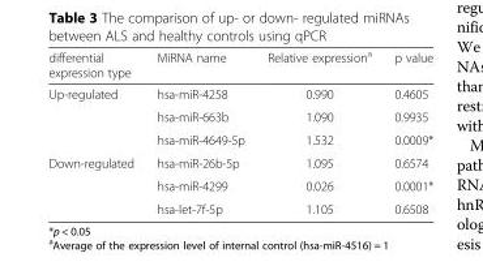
<table><thead><tr><td>differential expression type</td><td>MiRNA name</td><td>Relative expression<sup>a</sup></td><td>p value</td></tr></thead><tbody><tr><td rowspan="3">Up-regulated</td><td>hsa-miR-4258</td><td>0.990</td><td>0.4605</td></tr><tr><td>hsa-miR-663b</td><td>1.090</td><td>0.9935</td></tr><tr><td>hsa-miR-4649-5p</td><td>1.532</td><td>0.0009*</td></tr><tr><td rowspan="3">Down-regulated</td><td>hsa-miR-26b-5p</td><td>1.095</td><td>0.6574</td></tr><tr><td>hsa-miR-4299</td><td>0.026</td><td>0.0001*</td></tr><tr><td>hsa-let-7f-5p</td><td>1.105</td><td>0.6508</td></tr></tbody></table>